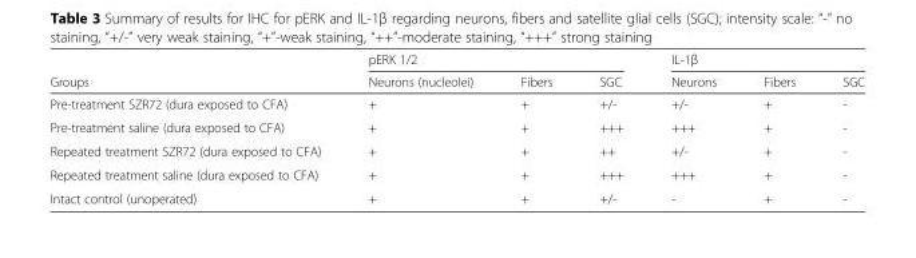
<table><thead><tr><td rowspan="2">Groups</td><td colspan="3">pERK 1/2</td><td colspan="3">IL-1β</td></tr><tr><td>Neurons (nucleolei)</td><td>Fibers</td><td>SGC</td><td>Neurons</td><td>Fibers</td><td>SGC</td></tr></thead><tbody><tr><td>Pre-treatment SZR72 (dura exposed to CFA)</td><td>+</td><td>+</td><td>+/-</td><td>+/-</td><td>+</td><td>-</td></tr><tr><td>Pre-treatment saline (dura exposed to CFA)</td><td>+</td><td>+</td><td>+++</td><td>+++</td><td>+</td><td>-</td></tr><tr><td>Repeated treatment SZR72 (dura exposed to CFA)</td><td>+</td><td>+</td><td>++</td><td>+/-</td><td>+</td><td>-</td></tr><tr><td>Repeated treatment saline (dura exposed to CFA)</td><td>+</td><td>+</td><td>+++</td><td>+++</td><td>+</td><td>-</td></tr><tr><td>Intact control (unoperated)</td><td>+</td><td>+</td><td>+/-</td><td>-</td><td>+</td><td>-</td></tr></tbody></table>